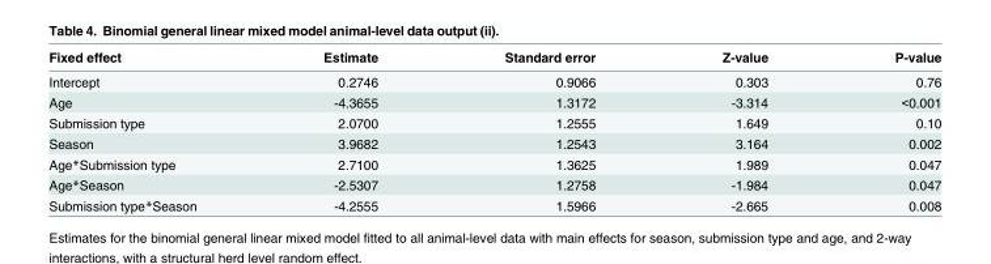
<table><thead><tr><td>Fixed effect</td><td>Estimate</td><td>Standard error</td><td>Z-value</td><td>P-value</td></tr></thead><tbody><tr><td>Intercept</td><td>0.2746</td><td>0.9066</td><td>0.303</td><td>0.76</td></tr><tr><td>Age</td><td>-4.3655</td><td>1.3172</td><td>-3.314</td><td>&lt;0.001</td></tr><tr><td>Submission type</td><td>2.0700</td><td>1.2555</td><td>1.649</td><td>0.10</td></tr><tr><td>Season</td><td>3.9682</td><td>1.2543</td><td>3.164</td><td>0.002</td></tr><tr><td>Age*Submission type</td><td>2.7100</td><td>1.3625</td><td>1.989</td><td>0.047</td></tr><tr><td>Age*Season</td><td>-2.5307</td><td>1.2758</td><td>-1.984</td><td>0.047</td></tr><tr><td>Submission type*Season</td><td>-4.2555</td><td>1.5966</td><td>-2.665</td><td>0.008</td></tr></tbody></table>